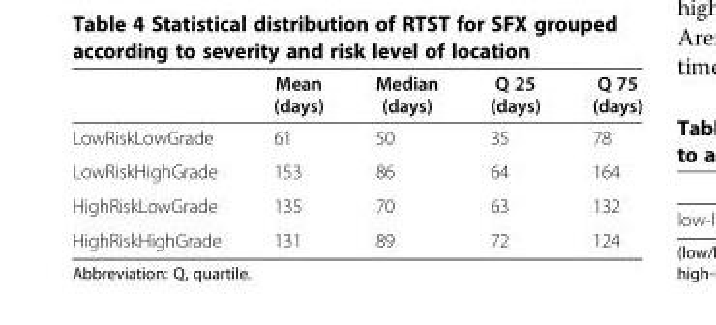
<table><thead><tr><td></td><td>Mean (days)</td><td>Median (days)</td><td>Q 25 (days)</td><td>Q 75 (days)</td></tr></thead><tbody><tr><td>LowRiskLowGrade</td><td>61</td><td>50</td><td>35</td><td>78</td></tr><tr><td>LowRiskHighGrade</td><td>153</td><td>86</td><td>64</td><td>164</td></tr><tr><td>HighRiskLowGrade</td><td>135</td><td>70</td><td>63</td><td>132</td></tr><tr><td>HighRiskHighGrade</td><td>131</td><td>89</td><td>72</td><td>124</td></tr></tbody></table>